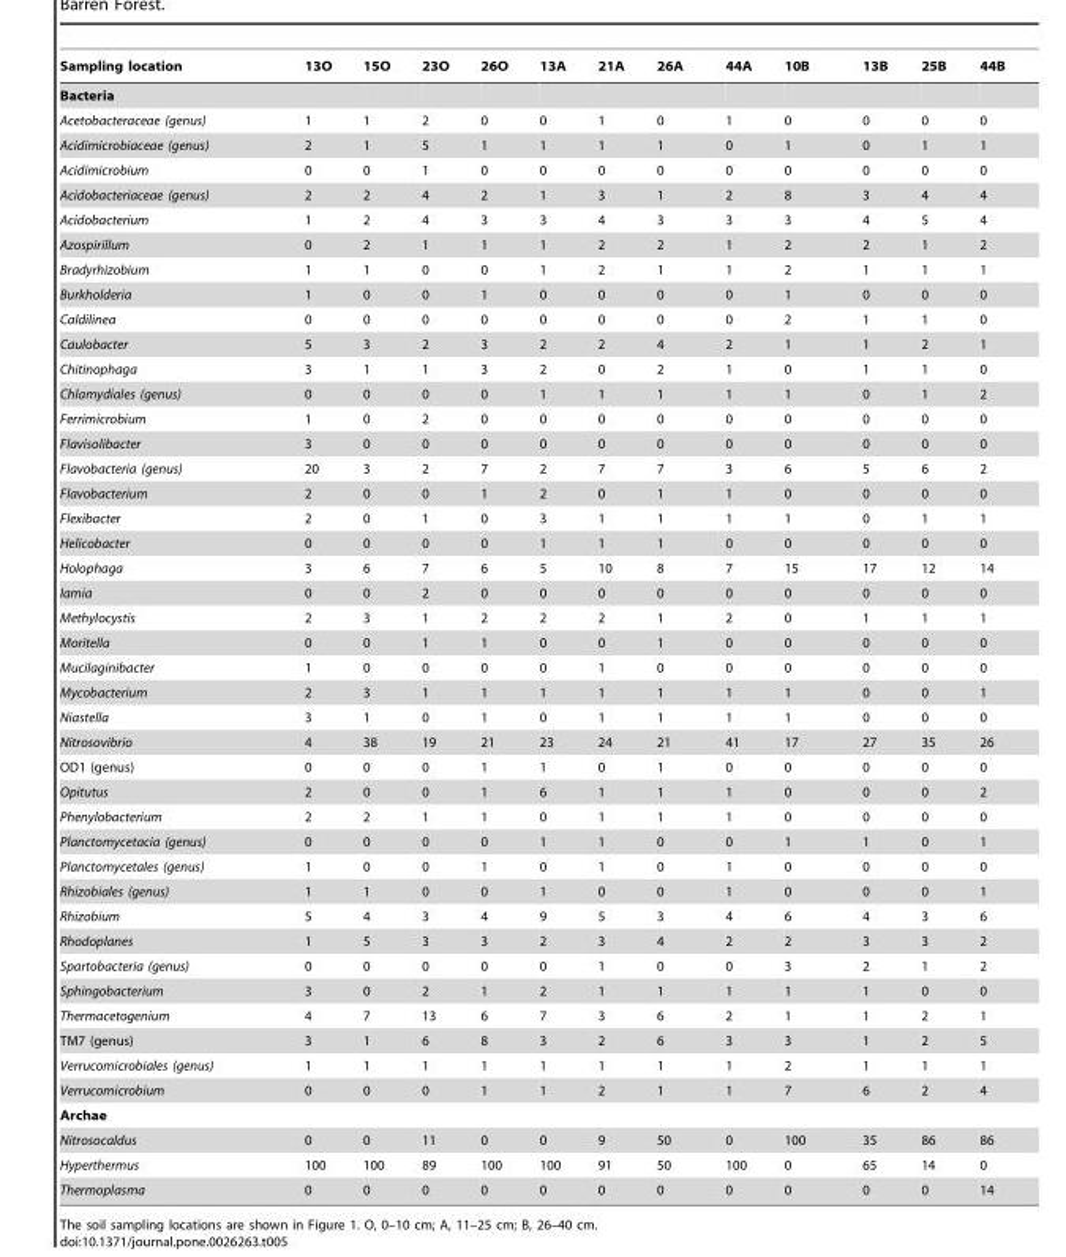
<table><thead><tr><td>Sampling location</td><td>13O</td><td>15O</td><td>23O</td><td>26O</td><td>13A</td><td>21A</td><td>26A</td><td>44A</td><td>10B</td><td>13B</td><td>25B</td><td>44B</td></tr></thead><tbody><tr><td colspan="13">Bacteria</td></tr><tr><td>Acetobacteraceae (genus)</td><td>1</td><td>1</td><td>2</td><td>0</td><td>0</td><td>1</td><td>0</td><td>1</td><td>0</td><td>0</td><td>0</td><td>0</td></tr><tr><td>Acidimicrobiaceae (genus)</td><td>2</td><td>1</td><td>5</td><td>1</td><td>1</td><td>1</td><td>1</td><td>0</td><td>1</td><td>0</td><td>1</td><td>1</td></tr><tr><td>Acidimicrobium</td><td>0</td><td>0</td><td>1</td><td>0</td><td>0</td><td>0</td><td>0</td><td>0</td><td>0</td><td>0</td><td>0</td><td>0</td></tr><tr><td>Acidobacteriaceae (genus)</td><td>2</td><td>2</td><td>4</td><td>2</td><td>1</td><td>3</td><td>1</td><td>2</td><td>8</td><td>3</td><td>4</td><td>4</td></tr><tr><td>Acidobacterium</td><td>1</td><td>2</td><td>4</td><td>3</td><td>3</td><td>4</td><td>3</td><td>3</td><td>3</td><td>4</td><td>5</td><td>4</td></tr><tr><td>Azospirillum</td><td>0</td><td>2</td><td>1</td><td>1</td><td>1</td><td>2</td><td>2</td><td>1</td><td>2</td><td>2</td><td>1</td><td>2</td></tr><tr><td>Bradyrhizobium</td><td>1</td><td>1</td><td>0</td><td>0</td><td>1</td><td>2</td><td>1</td><td>1</td><td>2</td><td>1</td><td>1</td><td>1</td></tr><tr><td>Burkholderia</td><td>1</td><td>0</td><td>0</td><td>1</td><td>0</td><td>0</td><td>0</td><td>0</td><td>1</td><td>0</td><td>0</td><td>0</td></tr><tr><td>Caldilinea</td><td>0</td><td>0</td><td>0</td><td>0</td><td>0</td><td>0</td><td>0</td><td>0</td><td>2</td><td>1</td><td>1</td><td>0</td></tr><tr><td>Caulobacter</td><td>5</td><td>3</td><td>2</td><td>3</td><td>2</td><td>2</td><td>4</td><td>2</td><td>1</td><td>1</td><td>2</td><td>1</td></tr><tr><td>Chitinophaga</td><td>3</td><td>1</td><td>1</td><td>3</td><td>2</td><td>0</td><td>2</td><td>1</td><td>0</td><td>1</td><td>1</td><td>0</td></tr><tr><td>Chlamydiales (genus)</td><td>0</td><td>0</td><td>0</td><td>0</td><td>1</td><td>1</td><td>1</td><td>1</td><td>1</td><td>0</td><td>1</td><td>2</td></tr><tr><td>Ferrimicrobium</td><td>1</td><td>0</td><td>2</td><td>0</td><td>0</td><td>0</td><td>0</td><td>0</td><td>0</td><td>0</td><td>0</td><td>0</td></tr><tr><td>Flavisolibacter</td><td>3</td><td>0</td><td>0</td><td>0</td><td>0</td><td>0</td><td>0</td><td>0</td><td>0</td><td>0</td><td>0</td><td>0</td></tr><tr><td>Flavobacteria (genus)</td><td>20</td><td>3</td><td>2</td><td>7</td><td>2</td><td>7</td><td>7</td><td>3</td><td>6</td><td>5</td><td>6</td><td>2</td></tr><tr><td>Flavobacterium</td><td>2</td><td>0</td><td>0</td><td>1</td><td>2</td><td>0</td><td>1</td><td>1</td><td>0</td><td>0</td><td>0</td><td>0</td></tr><tr><td>Flexibacter</td><td>2</td><td>0</td><td>1</td><td>0</td><td>3</td><td>1</td><td>1</td><td>1</td><td>1</td><td>0</td><td>1</td><td>1</td></tr><tr><td>Helicobacter</td><td>0</td><td>0</td><td>0</td><td>0</td><td>1</td><td>1</td><td>1</td><td>0</td><td>0</td><td>0</td><td>0</td><td>0</td></tr><tr><td>Holophaga</td><td>3</td><td>6</td><td>7</td><td>6</td><td>5</td><td>10</td><td>8</td><td>7</td><td>15</td><td>17</td><td>12</td><td>14</td></tr><tr><td>Iamia</td><td>0</td><td>0</td><td>2</td><td>0</td><td>0</td><td>0</td><td>0</td><td>0</td><td>0</td><td>0</td><td>0</td><td>0</td></tr><tr><td>Methylocystis</td><td>2</td><td>3</td><td>1</td><td>2</td><td>2</td><td>2</td><td>1</td><td>2</td><td>0</td><td>1</td><td>1</td><td>1</td></tr><tr><td>Moritella</td><td>0</td><td>0</td><td>1</td><td>1</td><td>0</td><td>0</td><td>1</td><td>0</td><td>0</td><td>0</td><td>0</td><td>0</td></tr><tr><td>Mucilaginibacter</td><td>1</td><td>0</td><td>0</td><td>0</td><td>0</td><td>1</td><td>0</td><td>0</td><td>0</td><td>0</td><td>0</td><td>0</td></tr><tr><td>Mycobacterium</td><td>2</td><td>3</td><td>1</td><td>1</td><td>1</td><td>1</td><td>1</td><td>1</td><td>1</td><td>0</td><td>0</td><td>1</td></tr><tr><td>Niastella</td><td>3</td><td>1</td><td>0</td><td>1</td><td>0</td><td>1</td><td>1</td><td>1</td><td>1</td><td>0</td><td>0</td><td>0</td></tr><tr><td>Nitrosovibrio</td><td>4</td><td>38</td><td>19</td><td>21</td><td>23</td><td>24</td><td>21</td><td>41</td><td>17</td><td>27</td><td>35</td><td>26</td></tr><tr><td>OD1 (genus)</td><td>0</td><td>0</td><td>0</td><td>1</td><td>1</td><td>0</td><td>1</td><td>0</td><td>0</td><td>0</td><td>0</td><td>0</td></tr><tr><td>Opitutus</td><td>2</td><td>0</td><td>0</td><td>1</td><td>6</td><td>1</td><td>1</td><td>1</td><td>0</td><td>0</td><td>0</td><td>2</td></tr><tr><td>Phenylobacterium</td><td>2</td><td>2</td><td>1</td><td>1</td><td>0</td><td>1</td><td>1</td><td>1</td><td>0</td><td>0</td><td>0</td><td>0</td></tr><tr><td>Planctomycetacia (genus)</td><td>0</td><td>0</td><td>0</td><td>0</td><td>1</td><td>1</td><td>0</td><td>0</td><td>1</td><td>1</td><td>0</td><td>1</td></tr><tr><td>Planctomycetales (genus)</td><td>1</td><td>0</td><td>0</td><td>1</td><td>0</td><td>1</td><td>0</td><td>1</td><td>0</td><td>0</td><td>0</td><td>0</td></tr><tr><td>Rhizobiales (genus)</td><td>1</td><td>1</td><td>0</td><td>0</td><td>1</td><td>0</td><td>0</td><td>1</td><td>0</td><td>0</td><td>0</td><td>1</td></tr><tr><td>Rhizobium</td><td>5</td><td>4</td><td>3</td><td>4</td><td>9</td><td>5</td><td>3</td><td>4</td><td>6</td><td>4</td><td>3</td><td>6</td></tr><tr><td>Rhodoplanes</td><td>1</td><td>5</td><td>3</td><td>3</td><td>2</td><td>3</td><td>4</td><td>2</td><td>2</td><td>3</td><td>3</td><td>2</td></tr><tr><td>Spartobacteria (genus)</td><td>0</td><td>0</td><td>0</td><td>0</td><td>0</td><td>1</td><td>0</td><td>0</td><td>3</td><td>2</td><td>1</td><td>2</td></tr><tr><td>Sphingobacterium</td><td>3</td><td>0</td><td>2</td><td>1</td><td>2</td><td>1</td><td>1</td><td>1</td><td>1</td><td>1</td><td>0</td><td>0</td></tr><tr><td>Thermacetogenium</td><td>4</td><td>7</td><td>13</td><td>6</td><td>7</td><td>3</td><td>6</td><td>2</td><td>1</td><td>1</td><td>2</td><td>1</td></tr><tr><td>TM7 (genus)</td><td>3</td><td>1</td><td>6</td><td>8</td><td>3</td><td>2</td><td>6</td><td>3</td><td>3</td><td>1</td><td>2</td><td>5</td></tr><tr><td>Verrucomicrobiales (genus)</td><td>1</td><td>1</td><td>1</td><td>1</td><td>1</td><td>1</td><td>1</td><td>1</td><td>2</td><td>1</td><td>1</td><td>1</td></tr><tr><td>Verrucomicrobium</td><td>0</td><td>0</td><td>0</td><td>1</td><td>1</td><td>2</td><td>1</td><td>1</td><td>7</td><td>6</td><td>2</td><td>4</td></tr><tr><td colspan="13">Archae</td></tr><tr><td>Nitrosocaldus</td><td>0</td><td>0</td><td>11</td><td>0</td><td>0</td><td>9</td><td>50</td><td>0</td><td>100</td><td>35</td><td>86</td><td>86</td></tr><tr><td>Hyperthermus</td><td>100</td><td>100</td><td>89</td><td>100</td><td>100</td><td>91</td><td>50</td><td>100</td><td>0</td><td>65</td><td>14</td><td>0</td></tr><tr><td>Thermoplasma</td><td>0</td><td>0</td><td>0</td><td>0</td><td>0</td><td>0</td><td>0</td><td>0</td><td>0</td><td>0</td><td>0</td><td>14</td></tr></tbody></table>